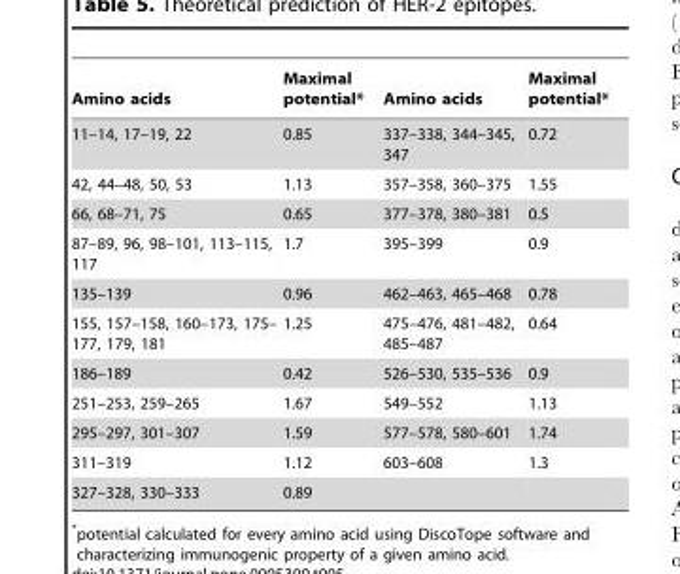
<table><thead><tr><td>Amino acids</td><td>Maximal potential*</td><td>Amino acids</td><td>Maximal potential*</td></tr></thead><tbody><tr><td>11–14, 17–19, 22</td><td>0.85</td><td>337–338, 344–345, 347</td><td>0.72</td></tr><tr><td>42, 44–48, 50, 53</td><td>1.13</td><td>357–358, 360–375</td><td>1.55</td></tr><tr><td>66, 68–71, 75</td><td>0.65</td><td>377–378, 380–381</td><td>0.5</td></tr><tr><td>87–89, 96, 98–101, 113–115, 117</td><td>1.7</td><td>395–399</td><td>0.9</td></tr><tr><td>135–139</td><td>0.96</td><td>462–463, 465–468</td><td>0.78</td></tr><tr><td>155, 157–158, 160–173, 175– 177, 179, 181</td><td>1.25</td><td>475–476, 481–482, 485–487</td><td>0.64</td></tr><tr><td>186–189</td><td>0.42</td><td>526–530, 535–536</td><td>0.9</td></tr><tr><td>251–253, 259–265</td><td>1.67</td><td>549–552</td><td>1.13</td></tr><tr><td>295–297, 301–307</td><td>1.59</td><td>577–578, 580–601</td><td>1.74</td></tr><tr><td>311–319</td><td>1.12</td><td>603–608</td><td>1.3</td></tr><tr><td>327–328, 330–333</td><td>0.89</td><td></td><td></td></tr></tbody></table>